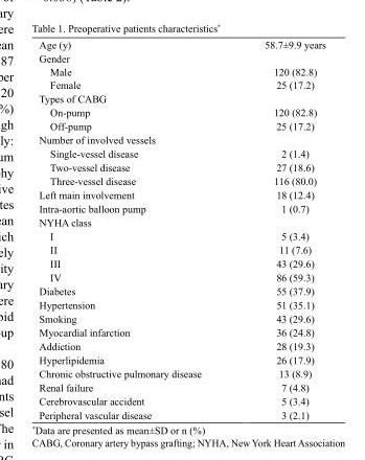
<table><tbody><tr><td>Age (y)</td><td>58.7±9.9 years</td></tr><tr><td colspan="2">Gender</td></tr><tr><td>Male</td><td>120 (82.8)</td></tr><tr><td>Female</td><td>25 (17.2)</td></tr><tr><td colspan="2">Types of CABG</td></tr><tr><td>On-pump</td><td>120 (82.8)</td></tr><tr><td>Off-pump</td><td>25 (17.2)</td></tr><tr><td colspan="2">Number of involved vessels</td></tr><tr><td>Single-vessel disease</td><td>2 (1.4)</td></tr><tr><td>Two-vessel disease</td><td>27 (18.6)</td></tr><tr><td>Three-vessel disease</td><td>116 (80.0)</td></tr><tr><td>Left main involvement</td><td>18 (12.4)</td></tr><tr><td>Intra-aortic balloon pump</td><td>1 (0.7)</td></tr><tr><td colspan="2">NYHA class</td></tr><tr><td>I</td><td>5 (3.4)</td></tr><tr><td>II</td><td>11 (7.6)</td></tr><tr><td>III</td><td>43 (29.6)</td></tr><tr><td>IV</td><td>86 (59.3)</td></tr><tr><td>Diabetes</td><td>55 (37.9)</td></tr><tr><td>Hypertension</td><td>51 (35.1)</td></tr><tr><td>Smoking</td><td>43 (29.6)</td></tr><tr><td>Myocardial infarction</td><td>36 (24.8)</td></tr><tr><td>Addiction</td><td>28 (19.3)</td></tr><tr><td>Hyperlipidemia</td><td>26 (17.9)</td></tr><tr><td>Chronic obstructive pulmonary disease</td><td>13 (8.9)</td></tr><tr><td>Renal failure</td><td>7 (4.8)</td></tr><tr><td>Cerebrovascular accident</td><td>5 (3.4)</td></tr><tr><td>Peripheral vascular disease</td><td>3 (2.1)</td></tr></tbody></table>